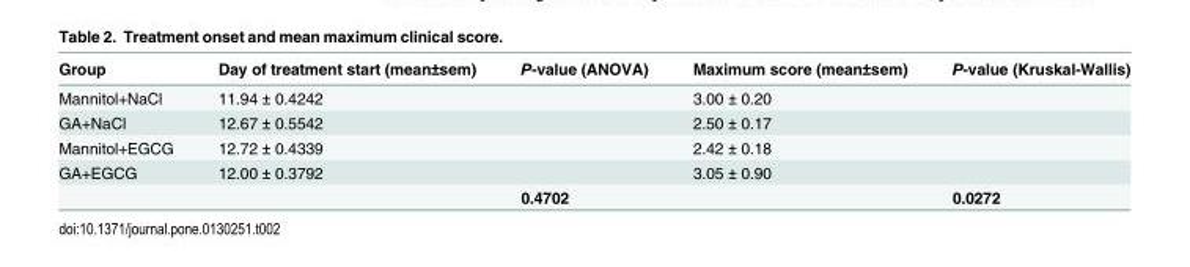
<table><thead><tr><td>Group</td><td>Day of treatment start (mean±sem)</td><td>P-value (ANOVA)</td><td>Maximum score (mean±sem)</td><td>P-value (Kruskal-Wallis)</td></tr></thead><tbody><tr><td>Mannitol+NaCl</td><td>11.94 ± 0.4242</td><td></td><td>3.00 ± 0.20</td><td></td></tr><tr><td>GA+NaCl</td><td>12.67 ± 0.5542</td><td></td><td>2.50 ± 0.17</td><td></td></tr><tr><td>Mannitol+EGCG</td><td>12.72 ± 0.4339</td><td></td><td>2.42 ± 0.18</td><td></td></tr><tr><td rowspan="2">GA+EGCG</td><td>12.00 ± 0.3792</td><td></td><td>3.05 ± 0.90</td><td></td></tr><tr><td></td><td>0.4702</td><td></td><td>0.0272</td></tr></tbody></table>